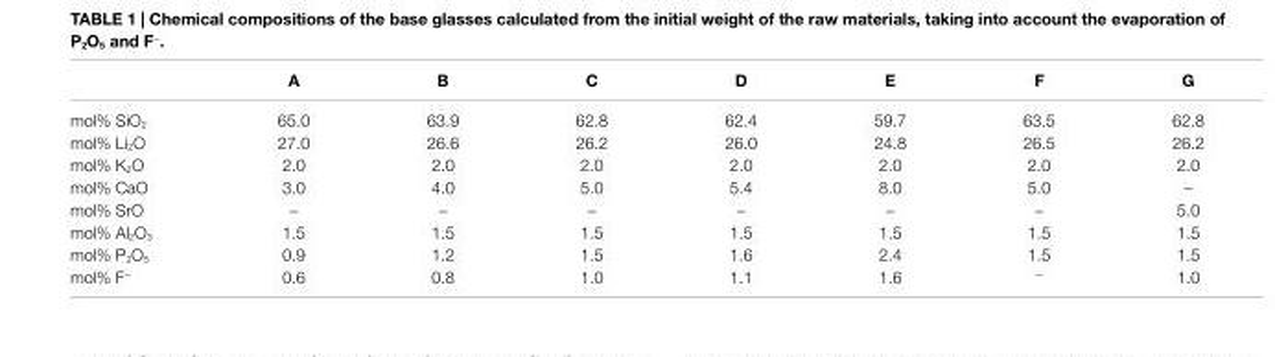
<table><thead><tr><td></td><td>a</td><td>B</td><td>c</td><td>D</td><td>e</td><td>F</td><td>g</td></tr></thead><tbody><tr><td>mol% SiO<sub>2</sub></td><td>65.0</td><td>63.9</td><td>62.8</td><td>62.4</td><td>59.7</td><td>63.5</td><td>62.8</td></tr><tr><td>mol% Li<sub>2</sub>O</td><td>27.0</td><td>26.6</td><td>26.2</td><td>26.0</td><td>24.8</td><td>26.5</td><td>26.2</td></tr><tr><td>mol% K<sub>2</sub>O</td><td>2.0</td><td>2.0</td><td>2.0</td><td>2.0</td><td>2.0</td><td>2.0</td><td>2.0</td></tr><tr><td>mol% CaO</td><td>3.0</td><td>4.0</td><td>5.0</td><td>5.4</td><td>8.0</td><td>5.0</td><td>–</td></tr><tr><td>mol% SrO</td><td>–</td><td>–</td><td>–</td><td>–</td><td>–</td><td>–</td><td>5.0</td></tr><tr><td>mol% Al<sub>2</sub>O<sub>3</sub></td><td>1.5</td><td>1.5</td><td>1.5</td><td>1.5</td><td>1.5</td><td>1.5</td><td>1.5</td></tr><tr><td>mol% P<sub>2</sub>O<sub>5</sub></td><td>0.9</td><td>1.2</td><td>1.5</td><td>1.6</td><td>2.4</td><td>1.5</td><td>1.5</td></tr><tr><td>mol% F<sup>−</sup></td><td>0.6</td><td>0.8</td><td>1.0</td><td>1.1</td><td>1.6</td><td><sup>−</sup></td><td>1.0</td></tr></tbody></table>